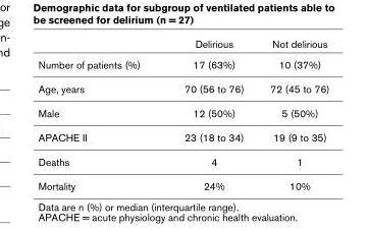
<table><thead><tr><td></td><td>Delirious</td><td>Not delirious</td></tr></thead><tbody><tr><td>Number of patients (%)</td><td>17 (63%)</td><td>10 (37%)</td></tr><tr><td>Age, years</td><td>70 (56 to 76)</td><td>72 (45 to 76)</td></tr><tr><td>Male</td><td>12 (50%)</td><td>5 (50%)</td></tr><tr><td>APACHE II</td><td>23 (18 to 34)</td><td>19 (9 to 35)</td></tr><tr><td>Deaths</td><td>4</td><td>1</td></tr><tr><td>Mortality</td><td>24%</td><td>10%</td></tr></tbody></table>